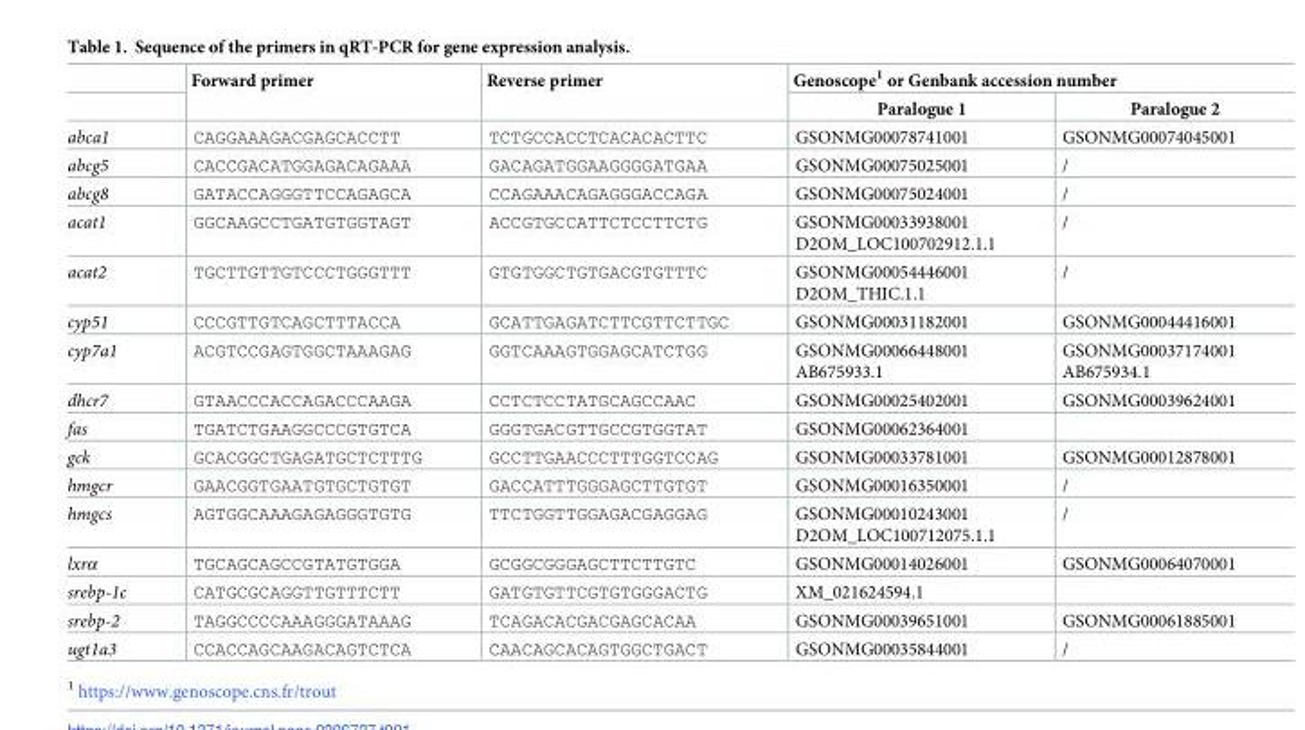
<table><thead><tr><td rowspan="2"></td><td rowspan="2">Forward primer</td><td rowspan="2">Reverse primer</td><td colspan="2">Genoscope<sup>1</sup> or Genbank accession number</td></tr><tr><td>Paralogue 1</td><td>Paralogue 2</td></tr></thead><tbody><tr><td>abca1</td><td>CAGGAAAGACGAGCACCTT</td><td>TCTGCCACCTCACACACTTC</td><td>GSONMG00078741001</td><td>GSONMG00074045001</td></tr><tr><td>abcg5</td><td>CACCGACATGGAGACAGAAA</td><td>GACAGATGGAAGGGGATGAA</td><td>GSONMG00075025001</td><td>/</td></tr><tr><td>abcg8</td><td>GATACCAGGGTTCCAGAGCA</td><td>CCAGAAACAGAGGGACCAGA</td><td>GSONMG00075024001</td><td>/</td></tr><tr><td>acat1</td><td>GGCAAGCCTGATGTGGTAGT</td><td>ACCGTGCCATTCTCCTTCTG</td><td>GSONMG00033938001 D2OM_LOC100702912.1.1</td><td>/</td></tr><tr><td>acat2</td><td>TGCTTGTTGTCCCTGGGTTT</td><td>GTGTGGCTGTGACGTGTTTC</td><td>GSONMG00054446001 D2OM_THIC.1.1</td><td>/</td></tr><tr><td>cyp51</td><td>CCCGTTGTCAGCTTTACCA</td><td>GCATTGAGATCTTCGTTCTTGC</td><td>GSONMG00031182001</td><td>GSONMG00044416001</td></tr><tr><td>cyp7a1</td><td>ACGTCCGAGTGGCTAAAGAG</td><td>GGTCAAAGTGGAGCATCTGG</td><td>GSONMG00066448001 AB675933.1</td><td>GSONMG00037174001 AB675934.1</td></tr><tr><td>dhcr7</td><td>GTAACCCACCAGACCCAAGA</td><td>CCTCTCCTATGCAGCCAAC</td><td>GSONMG00025402001</td><td>GSONMG00039624001</td></tr><tr><td>fas</td><td>TGATCTGAAGGCCCGTGTCA</td><td>GGGTGACGTTGCCGTGGTAT</td><td>GSONMG00062364001</td><td></td></tr><tr><td>gck</td><td>GCACGGCTGAGATGCTCTTTG</td><td>GCCTTGAACCCTTTGGTCCAG</td><td>GSONMG00033781001</td><td>GSONMG00012878001</td></tr><tr><td>hmgcr</td><td>GAACGGTGAATGTGCTGTGT</td><td>GACCATTTGGGAGCTTGTGT</td><td>GSONMG00016350001</td><td>/</td></tr><tr><td>hmgcs</td><td>AGTGGCAAAGAGAGGGTGTG</td><td>TTCTGGTTGGAGACGAGGAG</td><td>GSONMG00010243001 D2OM_LOC100712075.1.1</td><td>/</td></tr><tr><td>lxrα</td><td>TGCAGCAGCCGTATGTGGA</td><td>GCGGCGGGAGCTTCTTGTC</td><td>GSONMG00014026001</td><td>GSONMG00064070001</td></tr><tr><td>srebp-1c</td><td>CATGCGCAGGTTGTTTCTT</td><td>GATGTGTTCGTGTGGGACTG</td><td>XM_021624594.1</td><td></td></tr><tr><td>srebp-2</td><td>TAGGCCCCAAAGGGATAAAG</td><td>TCAGACACGACGAGCACAA</td><td>GSONMG00039651001</td><td>GSONMG00061885001</td></tr><tr><td>ugt1a3</td><td>CCACCAGCAAGACAGTCTCA</td><td>CAACAGCACAGTGGCTGACT</td><td>GSONMG00035844001</td><td>/</td></tr></tbody></table>